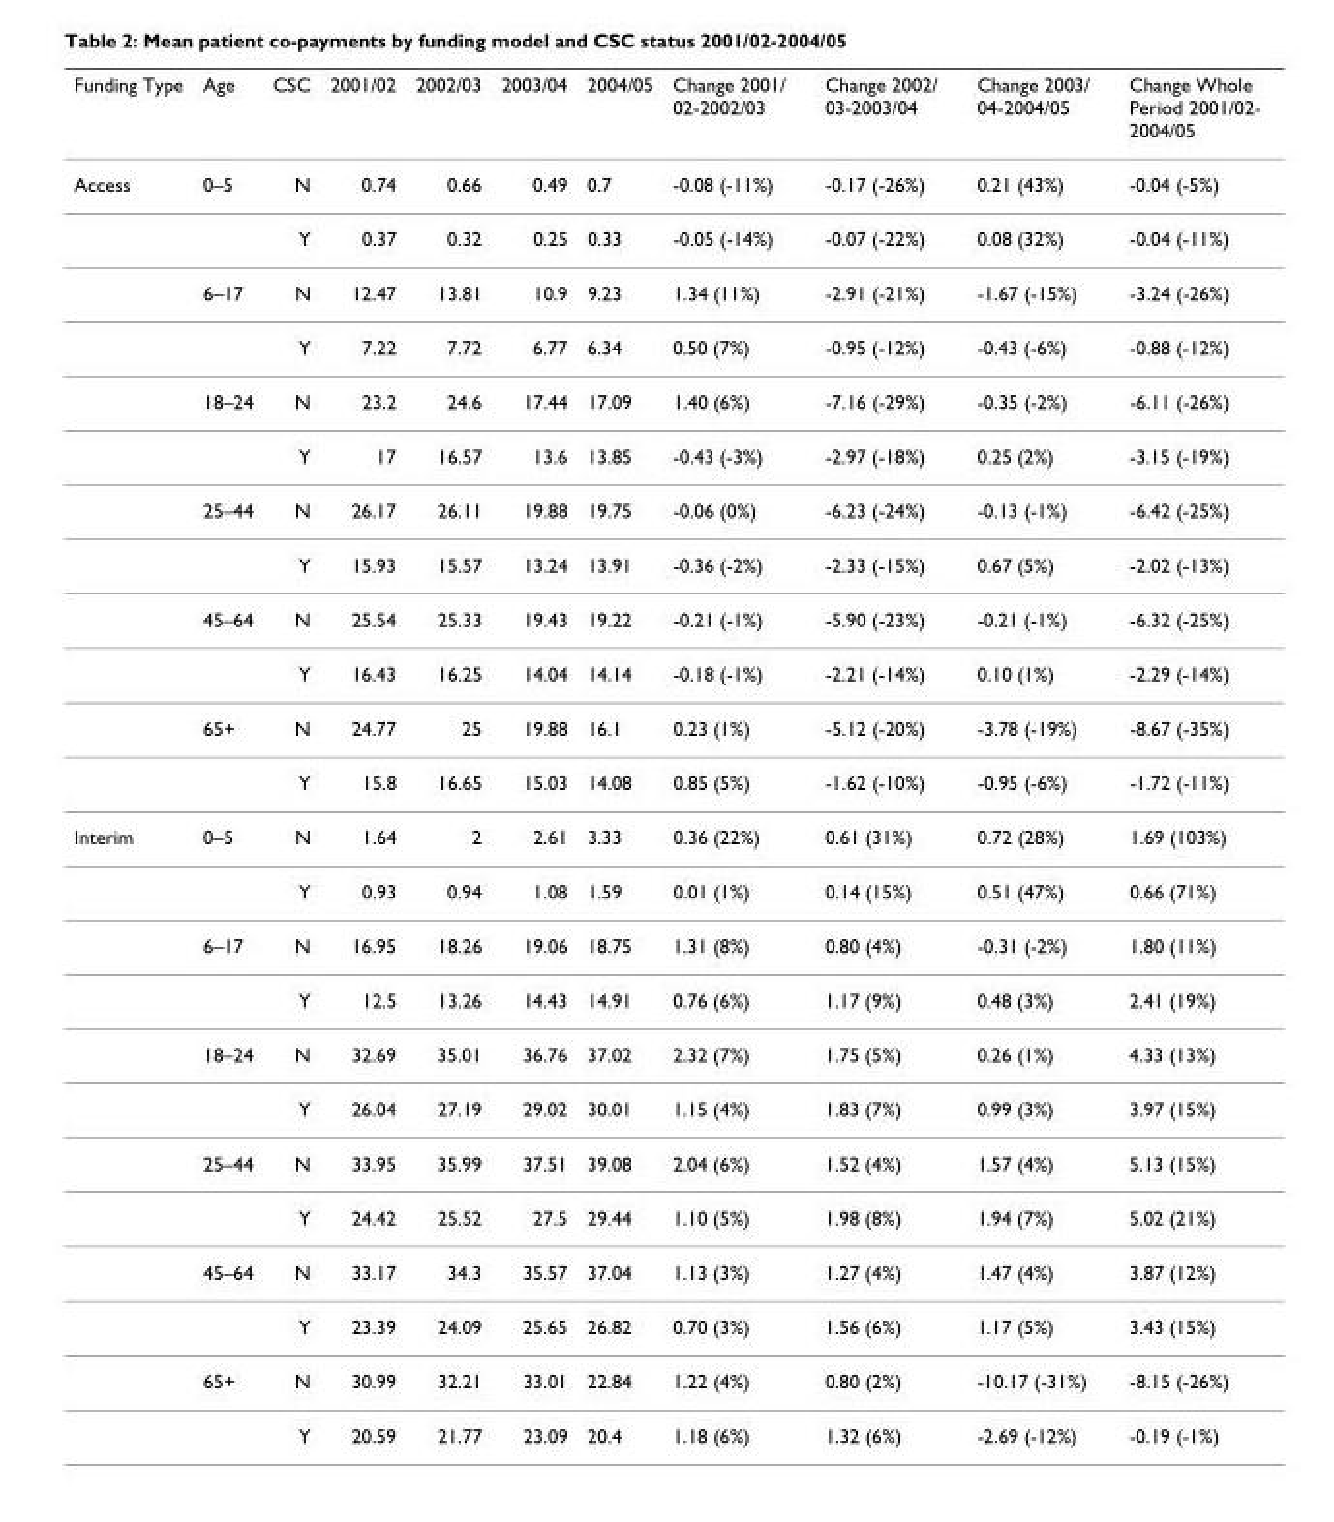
<table><thead><tr><td>Funding Type</td><td>Age</td><td>CSC</td><td>2001/02</td><td>2002/03</td><td>2003/04</td><td>2004/05</td><td>Change 2001/ 02-2002/03</td><td>Change 2002/ 03-2003/04</td><td>Change 2003/ 04-2004/05</td><td>Change Whole Period 2001/02- 2004/05</td></tr></thead><tbody><tr><td rowspan="12">Access</td><td>0–5</td><td>N</td><td>0.74</td><td>0.66</td><td>0.49</td><td>0.7</td><td>-0.08 (-11%)</td><td>-0.17 (-26%)</td><td>0.21 (43%)</td><td>-0.04 (-5%)</td></tr><tr><td></td><td>Y</td><td>0.37</td><td>0.32</td><td>0.25</td><td>0.33</td><td>-0.05 (-14%)</td><td>-0.07 (-22%)</td><td>0.08 (32%)</td><td>-0.04 (-11%)</td></tr><tr><td>6–17</td><td>N</td><td>12.47</td><td>13.81</td><td>10.9</td><td>9.23</td><td>1.34 (11%)</td><td>-2.91 (-21%)</td><td>-1.67 (-15%)</td><td>-3.24 (-26%)</td></tr><tr><td></td><td>Y</td><td>7.22</td><td>7.72</td><td>6.77</td><td>6.34</td><td>0.50 (7%)</td><td>-0.95 (-12%)</td><td>-0.43 (-6%)</td><td>-0.88 (-12%)</td></tr><tr><td>18–24</td><td>N</td><td>23.2</td><td>24.6</td><td>17.44</td><td>17.09</td><td>1.40 (6%)</td><td>-7.16 (-29%)</td><td>-0.35 (-2%)</td><td>-6.11 (-26%)</td></tr><tr><td></td><td>Y</td><td>17</td><td>16.57</td><td>13.6</td><td>13.85</td><td>-0.43 (-3%)</td><td>-2.97 (-18%)</td><td>0.25 (2%)</td><td>-3.15 (-19%)</td></tr><tr><td>25–44</td><td>N</td><td>26.17</td><td>26.11</td><td>19.88</td><td>19.75</td><td>-0.06 (0%)</td><td>-6.23 (-24%)</td><td>-0.13 (-1%)</td><td>-6.42 (-25%)</td></tr><tr><td></td><td>Y</td><td>15.93</td><td>15.57</td><td>13.24</td><td>13.91</td><td>-0.36 (-2%)</td><td>-2.33 (-15%)</td><td>0.67 (5%)</td><td>-2.02 (-13%)</td></tr><tr><td>45–64</td><td>N</td><td>25.54</td><td>25.33</td><td>19.43</td><td>19.22</td><td>-0.21 (-1%)</td><td>-5.90 (-23%)</td><td>-0.21 (-1%)</td><td>-6.32 (-25%)</td></tr><tr><td></td><td>Y</td><td>16.43</td><td>16.25</td><td>14.04</td><td>14.14</td><td>-0.18 (-1%)</td><td>-2.21 (-14%)</td><td>0.10 (1%)</td><td>-2.29 (-14%)</td></tr><tr><td>65+</td><td>N</td><td>24.77</td><td>25</td><td>19.88</td><td>16.1</td><td>0.23 (1%)</td><td>-5.12 (-20%)</td><td>-3.78 (-19%)</td><td>-8.67 (-35%)</td></tr><tr><td></td><td>Y</td><td>15.8</td><td>16.65</td><td>15.03</td><td>14.08</td><td>0.85 (5%)</td><td>-1.62 (-10%)</td><td>-0.95 (-6%)</td><td>-1.72 (-11%)</td></tr><tr><td rowspan="12">Interim</td><td>0–5</td><td>N</td><td>1.64</td><td>2</td><td>2.61</td><td>3.33</td><td>0.36 (22%)</td><td>0.61 (31%)</td><td>0.72 (28%)</td><td>1.69 (103%)</td></tr><tr><td></td><td>Y</td><td>0.93</td><td>0.94</td><td>1.08</td><td>1.59</td><td>0.01 (1%)</td><td>0.14 (15%)</td><td>0.51 (47%)</td><td>0.66 (71%)</td></tr><tr><td>6–17</td><td>N</td><td>16.95</td><td>18.26</td><td>19.06</td><td>18.75</td><td>1.31 (8%)</td><td>0.80 (4%)</td><td>-0.31 (-2%)</td><td>1.80 (11%)</td></tr><tr><td></td><td>Y</td><td>12.5</td><td>13.26</td><td>14.43</td><td>14.91</td><td>0.76 (6%)</td><td>1.17 (9%)</td><td>0.48 (3%)</td><td>2.41 (19%)</td></tr><tr><td>18–24</td><td>N</td><td>32.69</td><td>35.01</td><td>36.76</td><td>37.02</td><td>2.32 (7%)</td><td>1.75 (5%)</td><td>0.26 (1%)</td><td>4.33 (13%)</td></tr><tr><td></td><td>Y</td><td>26.04</td><td>27.19</td><td>29.02</td><td>30.01</td><td>1.15 (4%)</td><td>1.83 (7%)</td><td>0.99 (3%)</td><td>3.97 (15%)</td></tr><tr><td>25–44</td><td>N</td><td>33.95</td><td>35.99</td><td>37.51</td><td>39.08</td><td>2.04 (6%)</td><td>1.52 (4%)</td><td>1.57 (4%)</td><td>5.13 (15%)</td></tr><tr><td></td><td>Y</td><td>24.42</td><td>25.52</td><td>27.5</td><td>29.44</td><td>1.10 (5%)</td><td>1.98 (8%)</td><td>1.94 (7%)</td><td>5.02 (21%)</td></tr><tr><td>45–64</td><td>N</td><td>33.17</td><td>34.3</td><td>35.57</td><td>37.04</td><td>1.13 (3%)</td><td>1.27 (4%)</td><td>1.47 (4%)</td><td>3.87 (12%)</td></tr><tr><td></td><td>Y</td><td>23.39</td><td>24.09</td><td>25.65</td><td>26.82</td><td>0.70 (3%)</td><td>1.56 (6%)</td><td>1.17 (5%)</td><td>3.43 (15%)</td></tr><tr><td>65+</td><td>N</td><td>30.99</td><td>32.21</td><td>33.01</td><td>22.84</td><td>1.22 (4%)</td><td>0.80 (2%)</td><td>-10.17 (-31%)</td><td>-8.15 (-26%)</td></tr><tr><td></td><td>Y</td><td>20.59</td><td>21.77</td><td>23.09</td><td>20.4</td><td>1.18 (6%)</td><td>1.32 (6%)</td><td>-2.69 (-12%)</td><td>-0.19 (-1%)</td></tr></tbody></table>